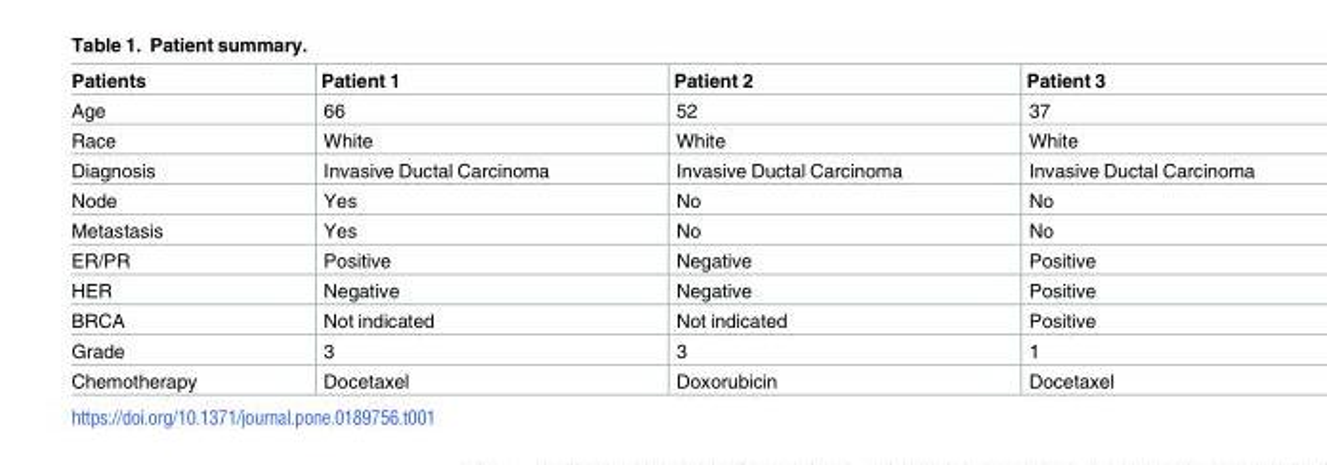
<table><thead><tr><td>Patients</td><td>Patient 1</td><td>Patient 2</td><td>Patient 3</td></tr></thead><tbody><tr><td>Age</td><td>66</td><td>52</td><td>37</td></tr><tr><td>Race</td><td>White</td><td>White</td><td>White</td></tr><tr><td>Diagnosis</td><td>Invasive Ductal Carcinoma</td><td>Invasive Ductal Carcinoma</td><td>Invasive Ductal Carcinoma</td></tr><tr><td>Node</td><td>Yes</td><td>No</td><td>No</td></tr><tr><td>Metastasis</td><td>Yes</td><td>No</td><td>No</td></tr><tr><td>ER/PR</td><td>Positive</td><td>Negative</td><td>Positive</td></tr><tr><td>HER</td><td>Negative</td><td>Negative</td><td>Positive</td></tr><tr><td>BRCA</td><td>Not indicated</td><td>Not indicated</td><td>Positive</td></tr><tr><td>Grade</td><td>3</td><td>3</td><td>1</td></tr><tr><td>Chemotherapy</td><td>Docetaxel</td><td>Doxorubicin</td><td>Docetaxel</td></tr></tbody></table>